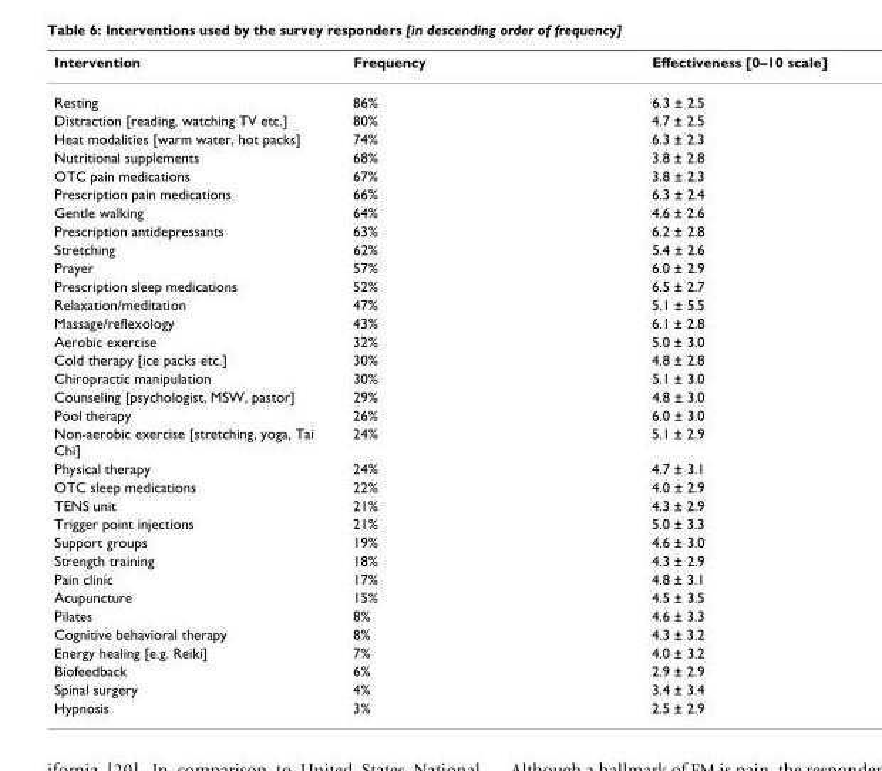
<table><thead><tr><td>Intervention</td><td>Frequency</td><td>Effectiveness [0–10 scale]</td></tr></thead><tbody><tr><td>Resting</td><td>86%</td><td>6.3 ± 2.5</td></tr><tr><td>Distraction [reading, watching TV etc.]</td><td>80%</td><td>4.7 ± 2.5</td></tr><tr><td>Heat modalities [warm water, hot packs]</td><td>74%</td><td>6.3 ± 2.3</td></tr><tr><td>Nutritional supplements</td><td>68%</td><td>3.8 ± 2.8</td></tr><tr><td>OTC pain medications</td><td>67%</td><td>3.8 ± 2.3</td></tr><tr><td>Prescription pain medications</td><td>66%</td><td>6.3 ± 2.4</td></tr><tr><td>Gentle walking</td><td>64%</td><td>4.6 ± 2.6</td></tr><tr><td>Prescription antidepressants</td><td>63%</td><td>6.2 ± 2.8</td></tr><tr><td>Stretching</td><td>62%</td><td>5.4 ± 2.6</td></tr><tr><td>Prayer</td><td>57%</td><td>6.0 ± 2.9</td></tr><tr><td>Prescription sleep medications</td><td>52%</td><td>6.5 ± 2.7</td></tr><tr><td>Relaxation/meditation</td><td>47%</td><td>5.1 ± 5.5</td></tr><tr><td>Massage/reflexology</td><td>43%</td><td>6.1 ± 2.8</td></tr><tr><td>Aerobic exercise</td><td>32%</td><td>5.0 ± 3.0</td></tr><tr><td>Cold therapy [ice packs etc.]</td><td>30%</td><td>4.8 ± 2.8</td></tr><tr><td>Chiropractic manipulation</td><td>30%</td><td>5.1 ± 3.0</td></tr><tr><td>Counseling [psychologist, MSW, pastor]</td><td>29%</td><td>4.8 ± 3.0</td></tr><tr><td>Pool therapy</td><td>26%</td><td>6.0 ± 3.0</td></tr><tr><td>Non-aerobic exercise [stretching, yoga, Tai Chi]</td><td>24%</td><td>5.1 ± 2.9</td></tr><tr><td>Physical therapy</td><td>24%</td><td>4.7 ± 3.1</td></tr><tr><td>OTC sleep medications</td><td>22%</td><td>4.0 ± 2.9</td></tr><tr><td>TENS unit</td><td>21%</td><td>4.3 ± 2.9</td></tr><tr><td>Trigger point injections</td><td>21%</td><td>5.0 ± 3.3</td></tr><tr><td>Support groups</td><td>19%</td><td>4.6 ± 3.0</td></tr><tr><td>Strength training</td><td>18%</td><td>4.3 ± 2.9</td></tr><tr><td>Pain clinic</td><td>17%</td><td>4.8 ± 3.1</td></tr><tr><td>Acupuncture</td><td>15%</td><td>4.5 ± 3.5</td></tr><tr><td>Pilates</td><td>8%</td><td>4.6 ± 3.3</td></tr><tr><td>Cognitive behavioral therapy</td><td>8%</td><td>4.3 ± 3.2</td></tr><tr><td>Energy healing [e.g. Reiki]</td><td>7%</td><td>4.0 ± 3.2</td></tr><tr><td>Biofeedback</td><td>6%</td><td>2.9 ± 2.9</td></tr><tr><td>Spinal surgery</td><td>4%</td><td>3.4 ± 3.4</td></tr><tr><td>Hypnosis</td><td>3%</td><td>2.5 ± 2.9</td></tr></tbody></table>